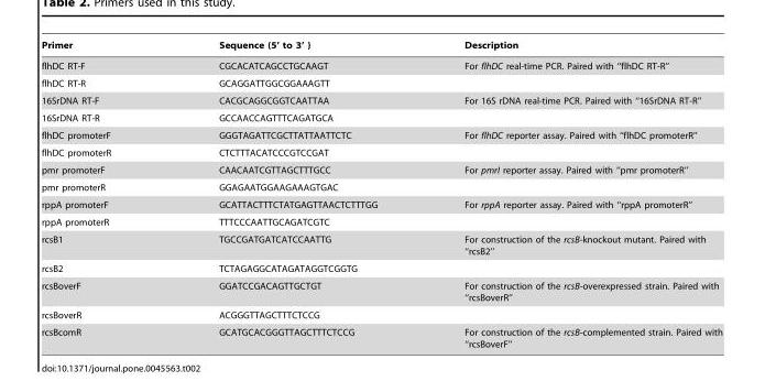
<table><thead><tr><td>Primer</td><td>Sequence (5’ to 3’ )</td><td>Description</td></tr></thead><tbody><tr><td>flhDC RT-F</td><td>CGCACATCAGCCTGCAAGT</td><td>For flhDC real-time PCR. Paired with ‘‘flhDC RT-R’’</td></tr><tr><td>flhDC RT-R</td><td>GCAGGATTGGCGGAAAGTT</td><td></td></tr><tr><td>16SrDNA RT-F</td><td>CACGCAGGCGGTCAATTAA</td><td>For 16S rDNA real-time PCR. Paired with ‘‘16SrDNA RT-R’’</td></tr><tr><td>16SrDNA RT-R</td><td>GCCAACCAGTTTCAGATGCA</td><td></td></tr><tr><td>flhDC promoterF</td><td>GGGTAGATTCGCTTATTAATTCTC</td><td>For flhDC reporter assay. Paired with ‘‘flhDC promoterR’’</td></tr><tr><td>flhDC promoterR</td><td>CTCTTTACATCCCGTCCGAT</td><td></td></tr><tr><td>pmr promoterF</td><td>CAACAATCGTTAGCTTTGCC</td><td>For pmrI reporter assay. Paired with ‘‘pmr promoterR’’</td></tr><tr><td>pmr promoterR</td><td>GGAGAATGGAAGAAAGTGAC</td><td></td></tr><tr><td>rppA promoterF</td><td>GCATTACTTTCTATGAGTTAACTCTTTGG</td><td>For rppA reporter assay. Paired with ‘‘rppA promoterR’’</td></tr><tr><td>rppA promoterR</td><td>TTTCCCAATTGCAGATCGTC</td><td></td></tr><tr><td>rcsB1</td><td>TGCCGATGATCATCCAATTG</td><td>For construction of the rcsB-knockout mutant. Paired with ‘‘rcsB2’’</td></tr><tr><td>rcsB2</td><td>TCTAGAGGCATAGATAGGTCGGTG</td><td></td></tr><tr><td>rcsBoverF</td><td>GGATCCGACAGTTGCTGT</td><td>For construction of the rcsB-overexpressed strain. Paired with ‘‘rcsBoverR’’</td></tr><tr><td>rcsBoverR</td><td>ACGGGTTAGCTTTCTCCG</td><td></td></tr><tr><td>rcsBcomR</td><td>GCATGCACGGGTTAGCTTTCTCCG</td><td>For construction of the rcsB-complemented strain. Paired with ‘‘rcsBoverF’’</td></tr></tbody></table>